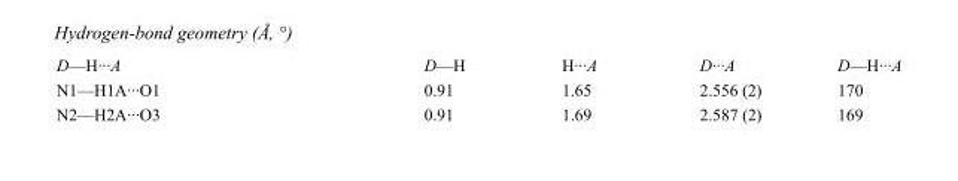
<table><tbody><tr><td>D—H···A</td><td>D—H</td><td>H···A</td><td>D···A</td><td>D—H···A</td></tr><tr><td>N1—H1A···O1</td><td>0.91</td><td>1.65</td><td>2.556 (2)</td><td>170</td></tr><tr><td>N2—H2A···O3</td><td>0.91</td><td>1.69</td><td>2.587 (2)</td><td>169</td></tr></tbody></table>